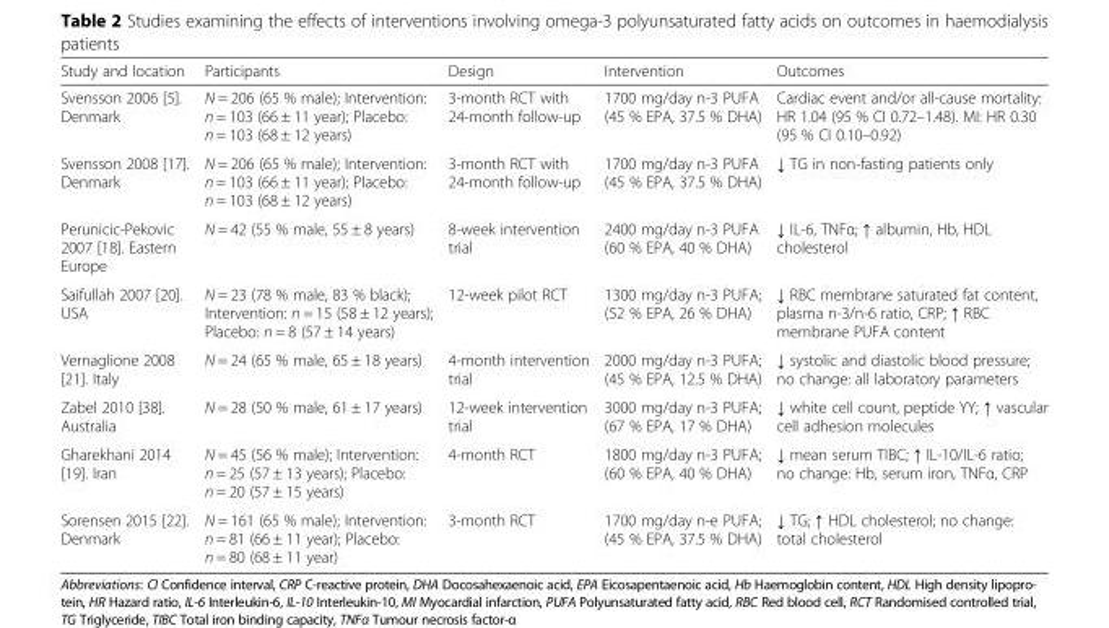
<table><thead><tr><td>Study and location</td><td>Participants</td><td>Design</td><td>Intervention</td><td>Outcomes</td></tr></thead><tbody><tr><td>Svensson 2006 [5]. Denmark</td><td>N = 206 (65 % male); Intervention: n = 103 (66 ± 11 year); Placebo: n = 103 (68 ± 12 years)</td><td>3-month RCT with 24-month follow-up</td><td>1700 mg/day n-3 PUFA (45 % EPA, 37.5 % DHA)</td><td>Cardiac event and/or all-cause mortality: HR 1.04 (95 % CI 0.72–1.48). MI: HR 0.30 (95 % CI 0.10–0.92)</td></tr><tr><td>Svensson 2008 [17]. Denmark</td><td>N = 206 (65 % male); Intervention: n = 103 (66 ± 11 year); Placebo: n = 103 (68 ± 12 years)</td><td>3-month RCT with 24-month follow-up</td><td>1700 mg/day n-3 PUFA (45 % EPA, 37.5 % DHA)</td><td>↓ TG in non-fasting patients only</td></tr><tr><td>Perunicic-Pekovic 2007 [18]. Eastern Europe</td><td>N = 42 (55 % male, 55 ± 8 years)</td><td>8-week intervention trial</td><td>2400 mg/day n-3 PUFA (60 % EPA, 40 % DHA)</td><td>↓ IL-6, TNFα; ↑ albumin, Hb, HDL cholesterol</td></tr><tr><td>Saifullah 2007 [20]. USA</td><td>N = 23 (78 % male, 83 % black); Intervention: n = 15 (58 ± 12 years); Placebo: n = 8 (57 ± 14 years)</td><td>12-week pilot RCT</td><td>1300 mg/day n-3 PUFA; (52 % EPA, 26 % DHA)</td><td>↓ RBC membrane saturated fat content, plasma n-3/n-6 ratio, CRP; ↑ RBC membrane PUFA content</td></tr><tr><td>Vernaglione 2008 [21]. Italy</td><td>N = 24 (65 % male, 65 ± 18 years)</td><td>4-month intervention trial</td><td>2000 mg/day n-3 PUFA; (45 % EPA, 12.5 % DHA)</td><td>↓ systolic and diastolic blood pressure; no change: all laboratory parameters</td></tr><tr><td>Zabel 2010 [38]. Australia</td><td>N = 28 (50 % male, 61 ± 17 years)</td><td>12-week intervention trial</td><td>3000 mg/day n-3 PUFA; (67 % EPA, 17 % DHA)</td><td>↓ white cell count, peptide YY; ↑ vascular cell adhesion molecules</td></tr><tr><td>Gharekhani 2014 [19]. Iran</td><td>N = 45 (56 % male); Intervention: n = 25 (57 ± 13 years); Placebo: n = 20 (57 ± 15 years)</td><td>4-month RCT</td><td>1800 mg/day n-3 PUFA; (60 % EPA, 40 % DHA)</td><td>↓ mean serum TIBC; ↑ IL-10/IL-6 ratio; no change: Hb, serum iron, TNFα, CRP</td></tr><tr><td>Sorensen 2015 [22]. Denmark</td><td>N = 161 (65 % male); Intervention: n = 81 (66 ± 11 year); Placebo: n = 80 (68 ± 11 year)</td><td>3-month RCT</td><td>1700 mg/day n-e PUFA; (45 % EPA, 37.5 % DHA)</td><td>↓ TG; ↑ HDL cholesterol; no change: total cholesterol</td></tr></tbody></table>